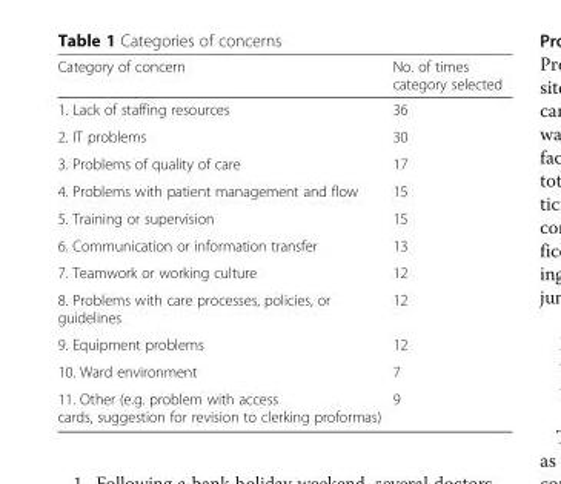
<table><thead><tr><td>Category of concern</td><td>No. of times category selected</td></tr></thead><tbody><tr><td>1. Lack of staffing resources</td><td>36</td></tr><tr><td>2. IT problems</td><td>30</td></tr><tr><td>3. Problems of quality of care</td><td>17</td></tr><tr><td>4. Problems with patient management and flow</td><td>15</td></tr><tr><td>5. Training or supervision</td><td>15</td></tr><tr><td>6. Communication or information transfer</td><td>13</td></tr><tr><td>7. Teamwork or working culture</td><td>12</td></tr><tr><td>8. Problems with care processes, policies, or guidelines</td><td>12</td></tr><tr><td>9. Equipment problems</td><td>12</td></tr><tr><td>10. Ward environment</td><td>7</td></tr><tr><td>11. Other (e.g. problem with access cards, suggestion for revision to clerking proformas)</td><td>9</td></tr></tbody></table>